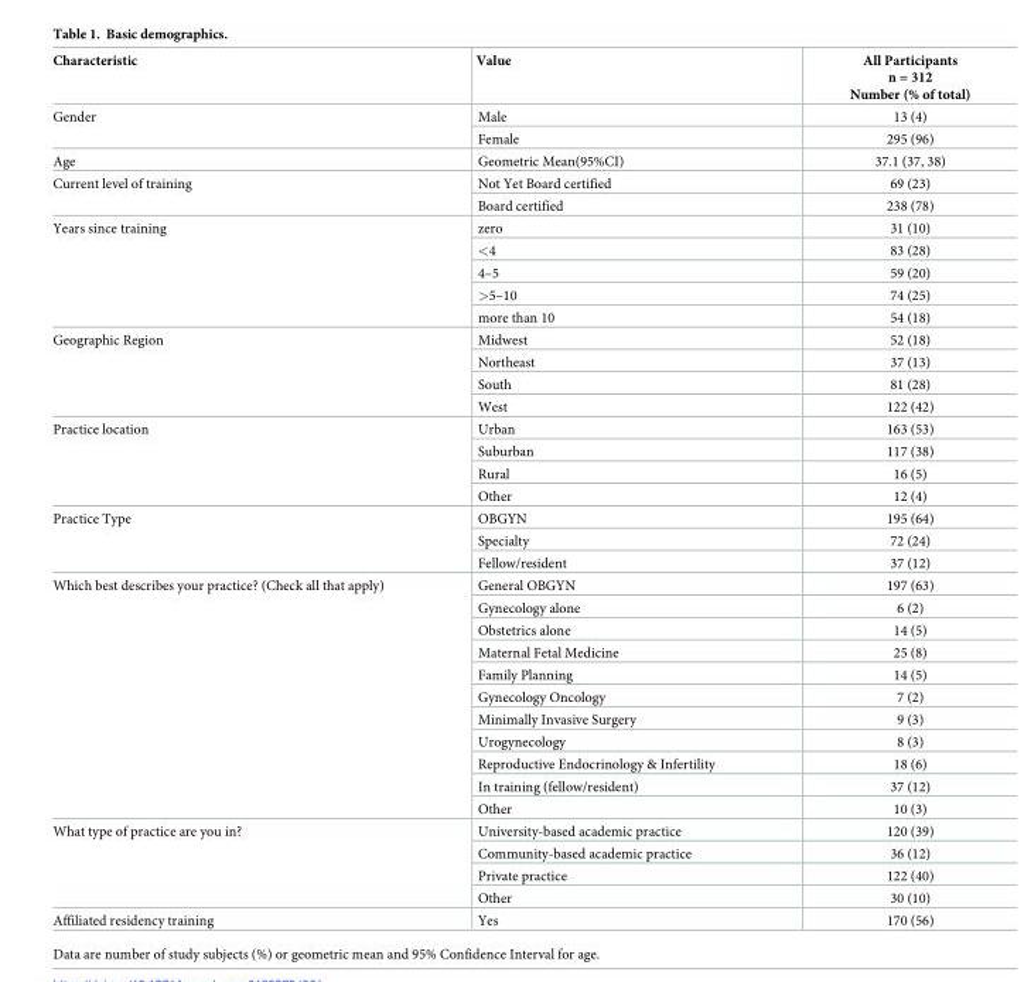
<table><thead><tr><td>Characteristic</td><td>Value</td><td>All Participants n = 312 Number (% of total)</td></tr></thead><tbody><tr><td rowspan="2">Gender</td><td>Male</td><td>13 (4)</td></tr><tr><td>Female</td><td>295 (96)</td></tr><tr><td>Age</td><td>Geometric Mean(95%CI)</td><td>37.1 (37, 38)</td></tr><tr><td rowspan="2">Current level of training</td><td>Not Yet Board certified</td><td>69 (23)</td></tr><tr><td>Board certified</td><td>238 (78)</td></tr><tr><td rowspan="5">Years since training</td><td>zero</td><td>31 (10)</td></tr><tr><td>&lt;4</td><td>83 (28)</td></tr><tr><td>4–5</td><td>59 (20)</td></tr><tr><td>&gt;5–10</td><td>74 (25)</td></tr><tr><td>more than 10</td><td>54 (18)</td></tr><tr><td rowspan="4">Geographic Region</td><td>Midwest</td><td>52 (18)</td></tr><tr><td>Northeast</td><td>37 (13)</td></tr><tr><td>South</td><td>81 (28)</td></tr><tr><td>West</td><td>122 (42)</td></tr><tr><td rowspan="4">Practice location</td><td>Urban</td><td>163 (53)</td></tr><tr><td>Suburban</td><td>117 (38)</td></tr><tr><td>Rural</td><td>16 (5)</td></tr><tr><td>Other</td><td>12 (4)</td></tr><tr><td rowspan="3">Practice Type</td><td>OBGYN</td><td>195 (64)</td></tr><tr><td>Specialty</td><td>72 (24)</td></tr><tr><td>Fellow/resident</td><td>37 (12)</td></tr><tr><td rowspan="11">Which best describes your practice? (Check all that apply)</td><td>General OBGYN</td><td>197 (63)</td></tr><tr><td>Gynecology alone</td><td>6 (2)</td></tr><tr><td>Obstetrics alone</td><td>14 (5)</td></tr><tr><td>Maternal Fetal Medicine</td><td>25 (8)</td></tr><tr><td>Family Planning</td><td>14 (5)</td></tr><tr><td>Gynecology Oncology</td><td>7 (2)</td></tr><tr><td>Minimally Invasive Surgery</td><td>9 (3)</td></tr><tr><td>Urogynecology</td><td>8 (3)</td></tr><tr><td>Reproductive Endocrinology &amp; Infertility</td><td>18 (6)</td></tr><tr><td>In training (fellow/resident)</td><td>37 (12)</td></tr><tr><td>Other</td><td>10 (3)</td></tr><tr><td rowspan="4">What type of practice are you in?</td><td>University-based academic practice</td><td>120 (39)</td></tr><tr><td>Community-based academic practice</td><td>36 (12)</td></tr><tr><td>Private practice</td><td>122 (40)</td></tr><tr><td>Other</td><td>30 (10)</td></tr><tr><td>Affiliated residency training</td><td>Yes</td><td>170 (56)</td></tr></tbody></table>